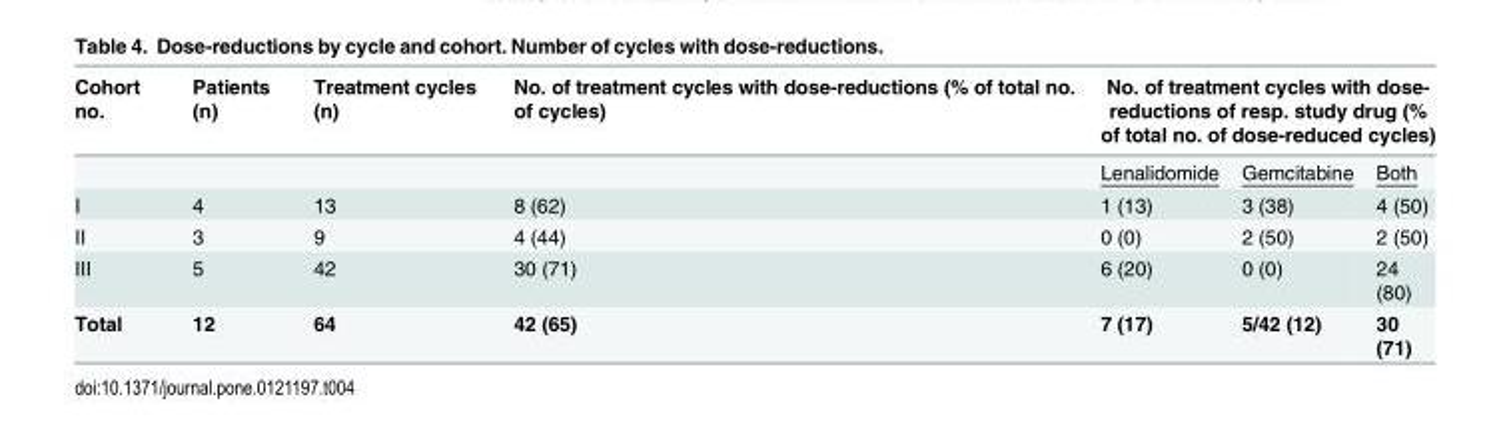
<table><thead><tr><td rowspan="2">Cohort no.</td><td rowspan="2">Patients (n)</td><td rowspan="2">Treatment cycles (n)</td><td rowspan="2">No. of treatment cycles with dose-reductions (% of total no. of cycles)</td><td colspan="3">No. of treatment cycles with dose- reductions of resp. study drug (% of total no. of dose-reduced cycles)</td></tr><tr><td>Lenalidomide</td><td>Gemcitabine</td><td>Both</td></tr></thead><tbody><tr><td>I</td><td>4</td><td>13</td><td>8 (62)</td><td>1 (13)</td><td>3 (38)</td><td>4 (50)</td></tr><tr><td>II</td><td>3</td><td>9</td><td>4 (44)</td><td>0 (0)</td><td>2 (50)</td><td>2 (50)</td></tr><tr><td>III</td><td>5</td><td>42</td><td>30 (71)</td><td>6 (20)</td><td>0 (0)</td><td>24 (80)</td></tr><tr><td>Total</td><td>12</td><td>64</td><td>42 (65)</td><td>7 (17)</td><td>5/42 (12)</td><td>30 (71)</td></tr></tbody></table>